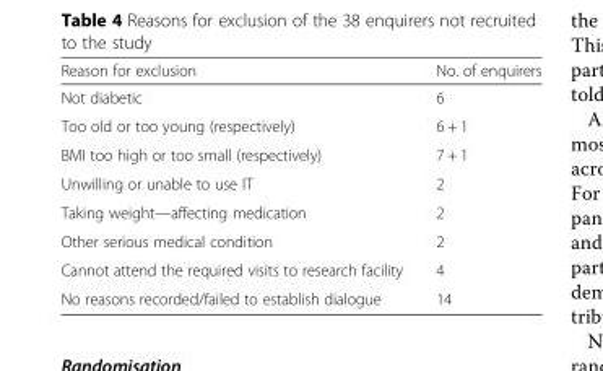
<table><thead><tr><td>Reason for exclusion</td><td>No. of enquirers</td></tr></thead><tbody><tr><td>Not diabetic</td><td>6</td></tr><tr><td>Too old or too young (respectively)</td><td>6 + 1</td></tr><tr><td>BMI too high or too small (respectively)</td><td>7 + 1</td></tr><tr><td>Unwilling or unable to use IT</td><td>2</td></tr><tr><td>Taking weight—affecting medication</td><td>2</td></tr><tr><td>Other serious medical condition</td><td>2</td></tr><tr><td>Cannot attend the required visits to research facility</td><td>4</td></tr><tr><td>No reasons recorded/failed to establish dialogue</td><td>14</td></tr></tbody></table>